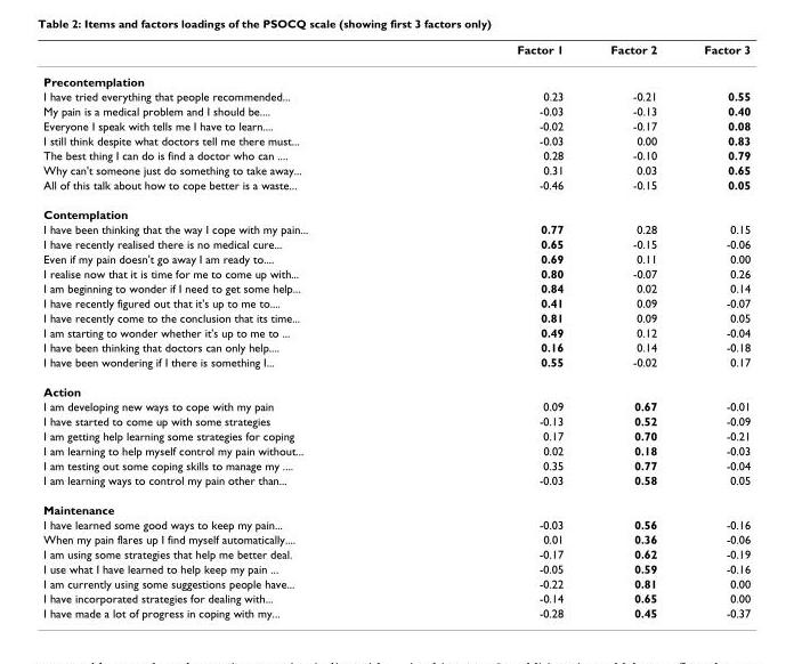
<table><thead><tr><td></td><td>Factor 1</td><td>Factor 2</td><td>Factor 3</td></tr></thead><tbody><tr><td colspan="4">Precontemplation</td></tr><tr><td>I have tried everything that people recommended...</td><td>0.23</td><td>-0.21</td><td>0.55</td></tr><tr><td>My pain is a medical problem and I should be....</td><td>-0.03</td><td>-0.13</td><td>0.40</td></tr><tr><td>Everyone I speak with tells me I have to learn....</td><td>-0.02</td><td>-0.17</td><td>0.08</td></tr><tr><td>I still think despite what doctors tell me there must...</td><td>-0.03</td><td>0.00</td><td>0.83</td></tr><tr><td>The best thing I can do is find a doctor who can ....</td><td>0.28</td><td>-0.10</td><td>0.79</td></tr><tr><td>Why can&#x27;t someone just do something to take away...</td><td>0.31</td><td>0.03</td><td>0.65</td></tr><tr><td>All of this talk about how to cope better is a waste...</td><td>-0.46</td><td>-0.15</td><td>0.05</td></tr><tr><td colspan="4">Contemplation</td></tr><tr><td>I have been thinking that the way I cope with my pain...</td><td>0.77</td><td>0.28</td><td>0.15</td></tr><tr><td>I have recently realised there is no medical cure...</td><td>0.65</td><td>-0.15</td><td>-0.06</td></tr><tr><td>Even if my pain doesn&#x27;t go away I am ready to....</td><td>0.69</td><td>0.11</td><td>0.00</td></tr><tr><td>I realise now that it is time for me to come up with...</td><td>0.80</td><td>-0.07</td><td>0.26</td></tr><tr><td>I am beginning to wonder if I need to get some help...</td><td>0.84</td><td>0.02</td><td>0.14</td></tr><tr><td>I have recently figured out that it&#x27;s up to me to....</td><td>0.41</td><td>0.09</td><td>-0.07</td></tr><tr><td>I have recently come to the conclusion that its time...</td><td>0.81</td><td>0.09</td><td>0.05</td></tr><tr><td>I am starting to wonder whether it&#x27;s up to me to ...</td><td>0.49</td><td>0.12</td><td>-0.04</td></tr><tr><td>I have been thinking that doctors can only help....</td><td>0.16</td><td>0.14</td><td>-0.18</td></tr><tr><td>I have been wondering if I there is something I...</td><td>0.55</td><td>-0.02</td><td>0.17</td></tr><tr><td colspan="4">Action</td></tr><tr><td>I am developing new ways to cope with my pain</td><td>0.09</td><td>0.67</td><td>-0.01</td></tr><tr><td>I have started to come up with some strategies</td><td>-0.13</td><td>0.52</td><td>-0.09</td></tr><tr><td>I am getting help learning some strategies for coping</td><td>0.17</td><td>0.70</td><td>-0.21</td></tr><tr><td>I am learning to help myself control my pain without...</td><td>0.02</td><td>0.18</td><td>-0.03</td></tr><tr><td>I am testing out some coping skills to manage my ....</td><td>0.35</td><td>0.77</td><td>-0.04</td></tr><tr><td>I am learning ways to control my pain other than...</td><td>-0.03</td><td>0.58</td><td>0.05</td></tr><tr><td colspan="4">Maintenance</td></tr><tr><td>I have learned some good ways to keep my pain...</td><td>-0.03</td><td>0.56</td><td>-0.16</td></tr><tr><td>When my pain flares up I find myself automatically....</td><td>0.01</td><td>0.36</td><td>-0.06</td></tr><tr><td>I am using some strategies that help me better deal.</td><td>-0.17</td><td>0.62</td><td>-0.19</td></tr><tr><td>I use what I have learned to help keep my pain ...</td><td>-0.05</td><td>0.59</td><td>-0.16</td></tr><tr><td>I am currently using some suggestions people have...</td><td>-0.22</td><td>0.81</td><td>0.00</td></tr><tr><td>I have incorporated strategies for dealing with...</td><td>-0.14</td><td>0.65</td><td>0.00</td></tr><tr><td>I have made a lot of progress in coping with my...</td><td>-0.28</td><td>0.45</td><td>-0.37</td></tr></tbody></table>